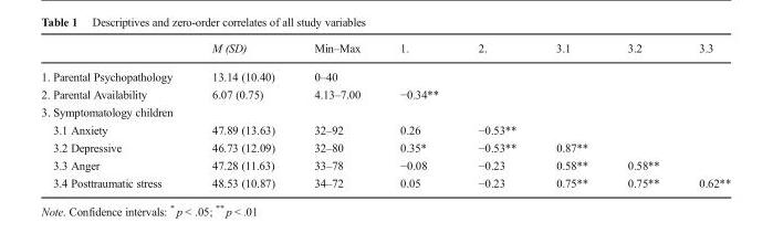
<table><thead><tr><td></td><td>M (SD)</td><td>Min–Max</td><td>1.</td><td>2.</td><td>3.1</td><td>3.2</td><td>3.3</td></tr></thead><tbody><tr><td>1. Parental Psychopathology</td><td>13.14 (10.40)</td><td>0–40</td><td></td><td></td><td></td><td></td><td></td></tr><tr><td>2. Parental Availability</td><td>6.07 (0.75)</td><td>4.13–7.00</td><td>−0.34**</td><td></td><td></td><td></td><td></td></tr><tr><td colspan="8">3. Symptomatology children</td></tr><tr><td>3.1 Anxiety</td><td>47.89 (13.63)</td><td>32–92</td><td>0.26</td><td>−0.53**</td><td></td><td></td><td></td></tr><tr><td>3.2 Depressive</td><td>46.73 (12.09)</td><td>32–80</td><td>0.35*</td><td>−0.53**</td><td>0.87**</td><td></td><td></td></tr><tr><td>3.3 Anger</td><td>47.28 (11.63)</td><td>33–78</td><td>−0.08</td><td>−0.23</td><td>0.58**</td><td>0.58**</td><td></td></tr><tr><td>3.4 Posttraumatic stress</td><td>48.53 (10.87)</td><td>34–72</td><td>0.05</td><td>−0.23</td><td>0.75**</td><td>0.75**</td><td>0.62**</td></tr></tbody></table>